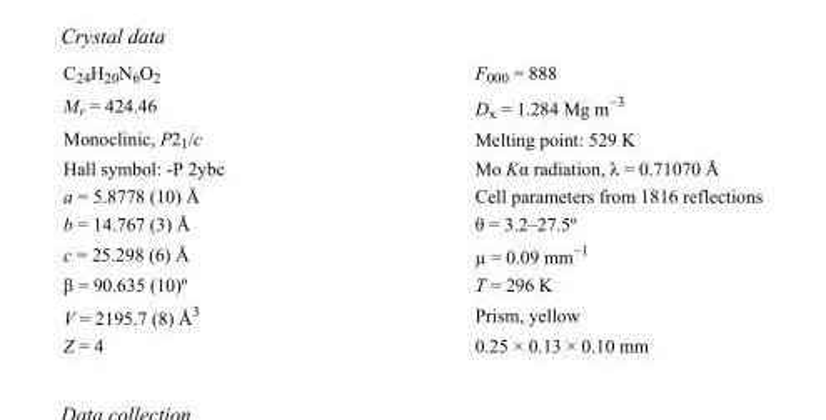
<table><tbody><tr><td>C<sub>24</sub>H<sub>20</sub>N<sub>6</sub>O<sub>2</sub></td><td>F000 = 888</td></tr><tr><td>M<sub>r</sub> = 424.46</td><td>D<sub>x</sub> = 1.284 Mg m<sup>−3</sup></td></tr><tr><td>Monoclinic, P2<sub>1</sub>/c</td><td>Melting point: 529 K</td></tr><tr><td>Hall symbol: -P 2ybc</td><td>Mo Kα radiation, λ = 0.71070 Å</td></tr><tr><td>a = 5.8778 (10) Å</td><td>Cell parameters from 1816 reflections</td></tr><tr><td>b = 14.767 (3) Å</td><td>θ = 3.2–27.5º</td></tr><tr><td>c = 25.298 (6) Å</td><td>µ = 0.09 mm<sup>−1</sup></td></tr><tr><td>β = 90.635 (10)º</td><td>T = 296 K</td></tr><tr><td>V = 2195.7 (8) Å<sup>3</sup></td><td>Prism, yellow</td></tr><tr><td>Z = 4</td><td>0.25 × 0.13 × 0.10 mm</td></tr></tbody></table>